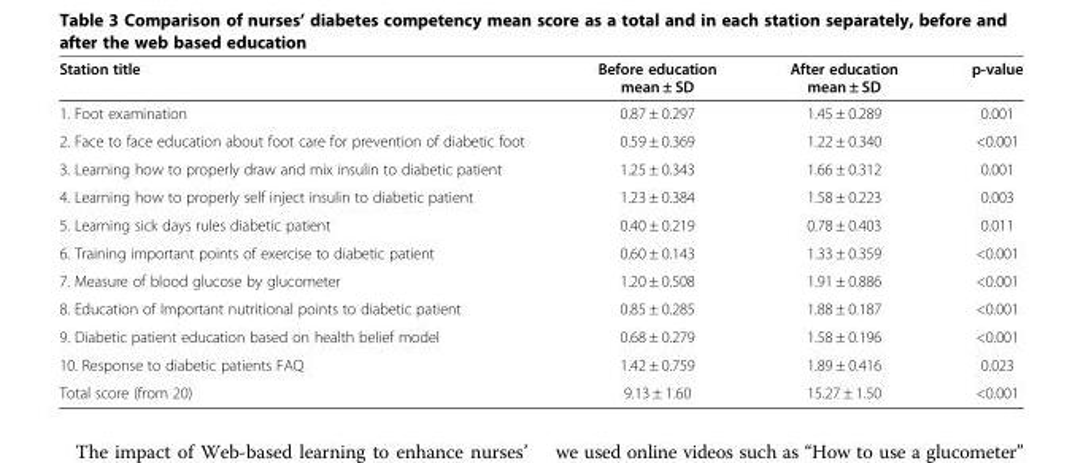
<table><thead><tr><td>Station title</td><td>Before education mean ± SD</td><td>After education mean ± SD</td><td>p-value</td></tr></thead><tbody><tr><td>1. Foot examination</td><td>0.87 ± 0.297</td><td>1.45 ± 0.289</td><td>0.001</td></tr><tr><td>2. Face to face education about foot care for prevention of diabetic foot</td><td>0.59 ± 0.369</td><td>1.22 ± 0.340</td><td>&lt;0.001</td></tr><tr><td>3. Learning how to properly draw and mix insulin to diabetic patient</td><td>1.25 ± 0.343</td><td>1.66 ± 0.312</td><td>0.001</td></tr><tr><td>4. Learning how to properly self inject insulin to diabetic patient</td><td>1.23 ± 0.384</td><td>1.58 ± 0.223</td><td>0.003</td></tr><tr><td>5. Learning sick days rules diabetic patient</td><td>0.40 ± 0.219</td><td>0.78 ± 0.403</td><td>0.011</td></tr><tr><td>6. Training important points of exercise to diabetic patient</td><td>0.60 ± 0.143</td><td>1.33 ± 0.359</td><td>&lt;0.001</td></tr><tr><td>7. Measure of blood glucose by glucometer</td><td>1.20 ± 0.508</td><td>1.91 ± 0.886</td><td>&lt;0.001</td></tr><tr><td>8. Education of Important nutritional points to diabetic patient</td><td>0.85 ± 0.285</td><td>1.88 ± 0.187</td><td>&lt;0.001</td></tr><tr><td>9. Diabetic patient education based on health belief model</td><td>0.68 ± 0.279</td><td>1.58 ± 0.196</td><td>&lt;0.001</td></tr><tr><td>10. Response to diabetic patients FAQ</td><td>1.42 ± 0.759</td><td>1.89 ± 0.416</td><td>0.023</td></tr><tr><td>Total score (from 20)</td><td>9.13 ± 1.60</td><td>15.27 ± 1.50</td><td>&lt;0.001</td></tr></tbody></table>